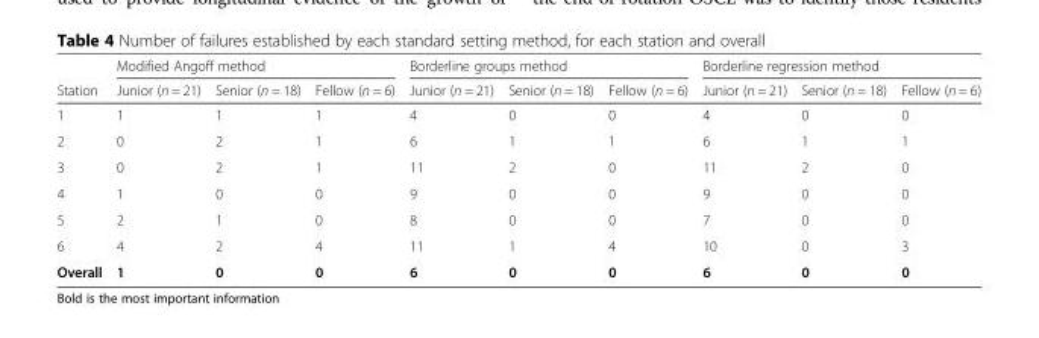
<table><thead><tr><td rowspan="2">Station</td><td colspan="3">Modified Angoff method</td><td colspan="3">Borderline groups method</td><td colspan="3">Borderline regression method</td></tr><tr><td>Junior (n = 21)</td><td>Senior (n = 18)</td><td>Fellow (n = 6)</td><td>Junior (n = 21)</td><td>Senior (n = 18)</td><td>Fellow (n = 6)</td><td>Junior (n = 21)</td><td>Senior (n = 18)</td><td>Fellow (n = 6)</td></tr></thead><tbody><tr><td>1</td><td>1</td><td>1</td><td>1</td><td>4</td><td>0</td><td>0</td><td>4</td><td>0</td><td>0</td></tr><tr><td>2</td><td>0</td><td>2</td><td>1</td><td>6</td><td>1</td><td>1</td><td>6</td><td>1</td><td>1</td></tr><tr><td>3</td><td>0</td><td>2</td><td>1</td><td>11</td><td>2</td><td>0</td><td>11</td><td>2</td><td>0</td></tr><tr><td>4</td><td>1</td><td>0</td><td>0</td><td>9</td><td>0</td><td>0</td><td>9</td><td>0</td><td>0</td></tr><tr><td>5</td><td>2</td><td>1</td><td>0</td><td>8</td><td>0</td><td>0</td><td>7</td><td>0</td><td>0</td></tr><tr><td>6</td><td>4</td><td>2</td><td>4</td><td>11</td><td>1</td><td>4</td><td>10</td><td>0</td><td>3</td></tr><tr><td>Overall</td><td>1</td><td>0</td><td>0</td><td>6</td><td>0</td><td>0</td><td>6</td><td>0</td><td>0</td></tr></tbody></table>